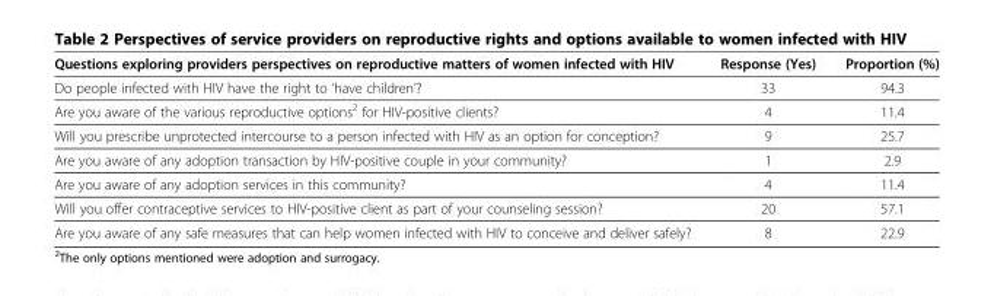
<table><thead><tr><td>Questions exploring providers perspectives on reproductive matters of women infected with HIV</td><td>Response (Yes)</td><td>Proportion (%)</td></tr></thead><tbody><tr><td>Do people infected with HIV have the right to ‘have children’?</td><td>33</td><td>94.3</td></tr><tr><td>Are you aware of the various reproductive options<sup>2</sup> for HIV-positive clients?</td><td>4</td><td>11.4</td></tr><tr><td>Will you prescribe unprotected intercourse to a person infected with HIV as an option for conception?</td><td>9</td><td>25.7</td></tr><tr><td>Are you aware of any adoption transaction by HIV-positive couple in your community?</td><td>1</td><td>2.9</td></tr><tr><td>Are you aware of any adoption services in this community?</td><td>4</td><td>11.4</td></tr><tr><td>Will you offer contraceptive services to HIV-positive client as part of your counseling session?</td><td>20</td><td>57.1</td></tr><tr><td>Are you aware of any safe measures that can help women infected with HIV to conceive and deliver safely?</td><td>8</td><td>22.9</td></tr></tbody></table>